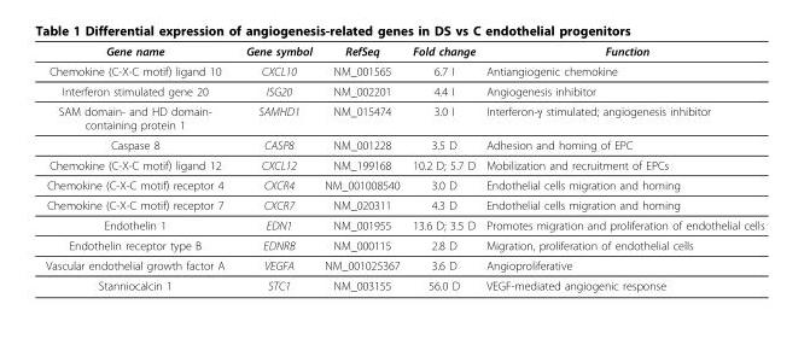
<table><thead><tr><td>Gene name</td><td>Gene symbol</td><td>RefSeq</td><td>Fold change</td><td>Function</td></tr></thead><tbody><tr><td>Chemokine (C-X-C motif) ligand 10</td><td>CXCL10</td><td>NM_001565</td><td>6.7 I</td><td>Antiangiogenic chemokine</td></tr><tr><td>Interferon stimulated gene 20</td><td>ISG20</td><td>NM_002201</td><td>4.4 I</td><td>Angiogenesis inhibitor</td></tr><tr><td>SAM domain- and HD domain- containing protein 1</td><td>SAMHD1</td><td>NM_015474</td><td>3.0 I</td><td>Interferon-γ stimulated; angiogenesis inhibitor</td></tr><tr><td>Caspase 8</td><td>CASP8</td><td>NM_001228</td><td>3.5 D</td><td>Adhesion and homing of EPC</td></tr><tr><td>Chemokine (C-X-C motif) ligand 12</td><td>CXCL12</td><td>NM_199168</td><td>10.2 D; 5.7 D</td><td>Mobilization and recruitment of EPCs</td></tr><tr><td>Chemokine (C-X-C motif) receptor 4</td><td>CXCR4</td><td>NM_001008540</td><td>3.0 D</td><td>Endothelial cells migration and homing</td></tr><tr><td>Chemokine (C-X-C motif) receptor 7</td><td>CXCR7</td><td>NM_020311</td><td>4.3 D</td><td>Endothelial cells migration and homing</td></tr><tr><td>Endothelin 1</td><td>EDN1</td><td>NM_001955</td><td>13.6 D; 3.5 D</td><td>Promotes migration and proliferation of endothelial cells</td></tr><tr><td>Endothelin receptor type B</td><td>EDNRB</td><td>NM_000115</td><td>2.8 D</td><td>Migration, proliferation of endothelial cells</td></tr><tr><td>Vascular endothelial growth factor A</td><td>VEGFA</td><td>NM_001025367</td><td>3.6 D</td><td>Angioproliferative</td></tr><tr><td>Stanniocalcin 1</td><td>STC1</td><td>NM_003155</td><td>56.0 D</td><td>VEGF-mediated angiogenic response</td></tr></tbody></table>